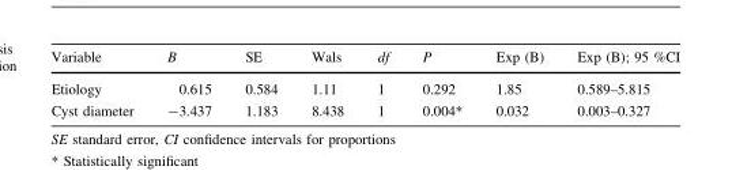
<table><thead><tr><td>Variable</td><td>B</td><td>SE</td><td>Wals</td><td>df</td><td>P</td><td>Exp (B)</td><td>Exp (B); 95 %CI</td></tr></thead><tbody><tr><td>Etiology</td><td>0.615</td><td>0.584</td><td>1.11</td><td>1</td><td>0.292</td><td>1.85</td><td>0.589–5.815</td></tr><tr><td>Cyst diameter</td><td>-3.437</td><td>1.183</td><td>8.438</td><td>1</td><td>0.004*</td><td>0.032</td><td>0.003–0.327</td></tr></tbody></table>